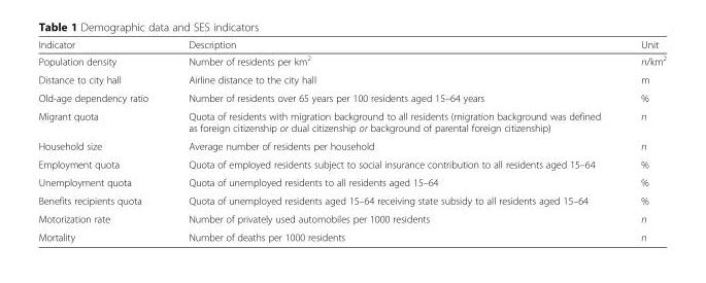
<table><thead><tr><td>Indicator</td><td>Description</td><td>Unit</td></tr></thead><tbody><tr><td>Population density</td><td>Number of residents per km<sup>2</sup></td><td>n/km<sup>2</sup></td></tr><tr><td>Distance to city hall</td><td>Airline distance to the city hall</td><td>m</td></tr><tr><td>Old-age dependency ratio</td><td>Number of residents over 65 years per 100 residents aged 15–64 years</td><td>%</td></tr><tr><td>Migrant quota</td><td>Quota of residents with migration background to all residents (migration background was defined as foreign citizenship or dual citizenship or background of parental foreign citizenship)</td><td>n</td></tr><tr><td>Household size</td><td>Average number of residents per household</td><td>n</td></tr><tr><td>Employment quota</td><td>Quota of employed residents subject to social insurance contribution to all residents aged 15–64</td><td>%</td></tr><tr><td>Unemployment quota</td><td>Quota of unemployed residents to all residents aged 15–64</td><td>%</td></tr><tr><td>Benefits recipients quota</td><td>Quota of unemployed residents aged 15–64 receiving state subsidy to all residents aged 15–64</td><td>%</td></tr><tr><td>Motorization rate</td><td>Number of privately used automobiles per 1000 residents</td><td>n</td></tr><tr><td>Mortality</td><td>Number of deaths per 1000 residents</td><td>n</td></tr></tbody></table>